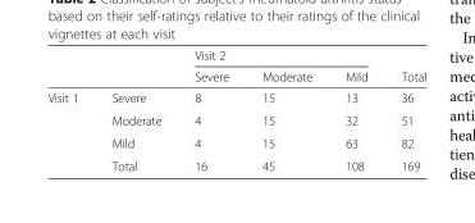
<table><thead><tr><td rowspan="2"></td><td rowspan="2"></td><td colspan="3">Visit 2</td><td rowspan="2">Total</td></tr><tr><td>Severe</td><td>Moderate</td><td>Mild</td></tr></thead><tbody><tr><td rowspan="4">Visit 1</td><td>Severe</td><td>8</td><td>15</td><td>13</td><td>36</td></tr><tr><td>Moderate</td><td>4</td><td>15</td><td>32</td><td>51</td></tr><tr><td>Mild</td><td>4</td><td>15</td><td>63</td><td>82</td></tr><tr><td>Total</td><td>16</td><td>45</td><td>108</td><td>169</td></tr></tbody></table>